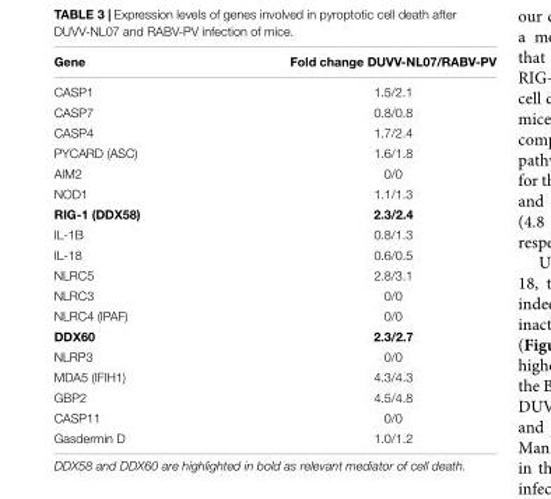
<table><thead><tr><td>Gene</td><td>Fold change DUVV-NL07/RABV-PV</td></tr></thead><tbody><tr><td>CASP1</td><td>1.5/2.1</td></tr><tr><td>CASP7</td><td>0.8/0.8</td></tr><tr><td>CASP4</td><td>1.7/2.4</td></tr><tr><td>PYCARD (ASC)</td><td>1.6/1.8</td></tr><tr><td>AIM2</td><td>0/0</td></tr><tr><td>NOD1</td><td>1.1/1.3</td></tr><tr><td>RIG-1 (DDX58)</td><td>2.3/2.4</td></tr><tr><td>IL-1B</td><td>0.8/1.3</td></tr><tr><td>IL-18</td><td>0.6/0.5</td></tr><tr><td>NLRC5</td><td>2.8/3.1</td></tr><tr><td>NLRC3</td><td>0/0</td></tr><tr><td>NLRC4 (IPAF)</td><td>0/0</td></tr><tr><td>DDX60</td><td>2.3/2.7</td></tr><tr><td>NLRP3</td><td>0/0</td></tr><tr><td>MDA5 (IFIH1)</td><td>4.3/4.3</td></tr><tr><td>GBP2</td><td>4.5/4.8</td></tr><tr><td>CASP11</td><td>0/0</td></tr><tr><td>Gasdermin D</td><td>1.0/1.2</td></tr></tbody></table>